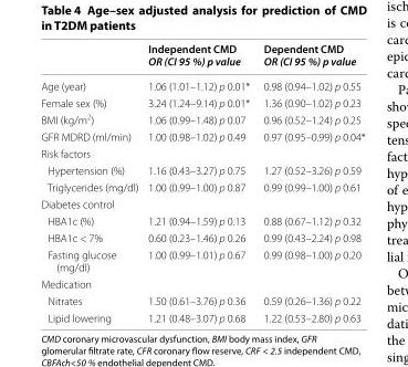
<table><thead><tr><td></td><td>Independent CMD OR (CI 95 %) p value</td><td>Dependent CMD OR (CI 95 %) p value</td></tr></thead><tbody><tr><td>Age (year)</td><td>1.06 (1.01–1.12) p 0.01*</td><td>0.98 (0.94–1.02) p 0.55</td></tr><tr><td>Female sex (%)</td><td>3.24 (1.24–9.14) p 0.01*</td><td>1.36 (0.90–1.02) p 0.23</td></tr><tr><td>BMI (kg/m<sup>2</sup>)</td><td>1.06 (0.99–1.48) p 0.07</td><td>0.96 (0.52–1.24) p 0.25</td></tr><tr><td>GFR MDRD (ml/min)</td><td>1.00 (0.98–1.02) p 0.49</td><td>0.97 (0.95–0.99) p 0.04*</td></tr><tr><td colspan="3">Risk factors</td></tr><tr><td>Hypertension (%)</td><td>1.16 (0.43–3.27) p 0.75</td><td>1.27 (0.52–3.26) p 0.59</td></tr><tr><td>Triglycerides (mg/dl)</td><td>1.00 (0.99–1.00) p 0.87</td><td>0.99 (0.99–1.00) p 0.61</td></tr><tr><td colspan="3">Diabetes control</td></tr><tr><td>HBA1c (%)</td><td>1.21 (0.94–1.59) p 0.13</td><td>0.88 (0.67–1.12) p 0.32</td></tr><tr><td>HBA1c &lt; 7%</td><td>0.60 (0.23–1.46) p 0.26</td><td>0.99 (0.43–2.24) p 0.98</td></tr><tr><td>Fasting glucose (mg/dl)</td><td>1.00 (0.99–1.01) p 0.67</td><td>0.99 (0.98–1.00) p 0.20</td></tr><tr><td colspan="3">Medication</td></tr><tr><td>Nitrates</td><td>1.50 (0.61–3.76) p 0.36</td><td>0.59 (0.26–1.36) p 0.22</td></tr><tr><td>Lipid lowering</td><td>1.21 (0.48–3.07) p 0.68</td><td>1.22 (0.53–2.80) p 0.63</td></tr></tbody></table>